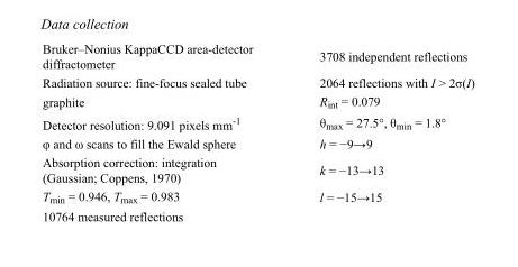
<table><tbody><tr><td>Bruker–Nonius KappaCCD area-detector diffractometer</td><td>3708 independent reflections</td></tr><tr><td>Radiation source: fine-focus sealed tube</td><td>2064 reflections with I &gt; 2σ(I)</td></tr><tr><td>graphite</td><td>R<sub>int</sub> = 0.079</td></tr><tr><td>Detector resolution: 9.091 pixels mm<sup>-1</sup></td><td>θ<sub>max</sub> = 27.5°, θ<sub>min</sub> = 1.8°</td></tr><tr><td>φ and ω scans to fill the Ewald sphere</td><td>h = −9→9</td></tr><tr><td>Absorption correction: integration (Gaussian; Coppens, 1970)</td><td>k = −13→13</td></tr><tr><td>T<sub>min</sub> = 0.946, T<sub>max</sub> = 0.983</td><td>l = −15→15</td></tr><tr><td>10764 measured reflections</td><td></td></tr></tbody></table>